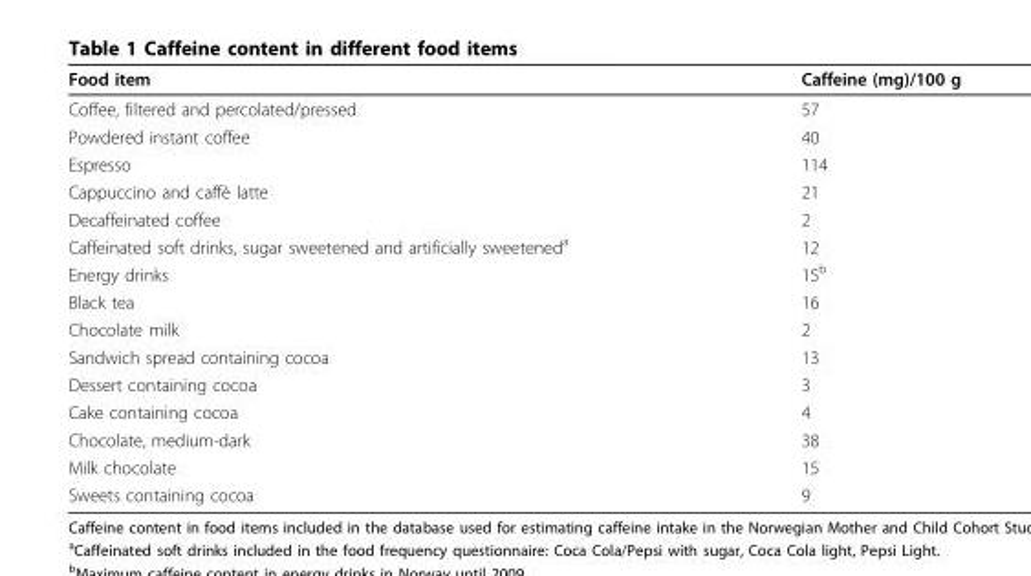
<table><thead><tr><td>Food item</td><td>Caffeine (mg)/100 g</td></tr></thead><tbody><tr><td>Coffee, filtered and percolated/pressed</td><td>57</td></tr><tr><td>Powdered instant coffee</td><td>40</td></tr><tr><td>Espresso</td><td>114</td></tr><tr><td>Cappuccino and caffè latte</td><td>21</td></tr><tr><td>Decaffeinated coffee</td><td>2</td></tr><tr><td>Caffeinated soft drinks, sugar sweetened and artificially sweetened<sup>a</sup></td><td>12</td></tr><tr><td>Energy drinks</td><td>15<sup>b</sup></td></tr><tr><td>Black tea</td><td>16</td></tr><tr><td>Chocolate milk</td><td>2</td></tr><tr><td>Sandwich spread containing cocoa</td><td>13</td></tr><tr><td>Dessert containing cocoa</td><td>3</td></tr><tr><td>Cake containing cocoa</td><td>4</td></tr><tr><td>Chocolate, medium-dark</td><td>38</td></tr><tr><td>Milk chocolate</td><td>15</td></tr><tr><td>Sweets containing cocoa</td><td>9</td></tr></tbody></table>